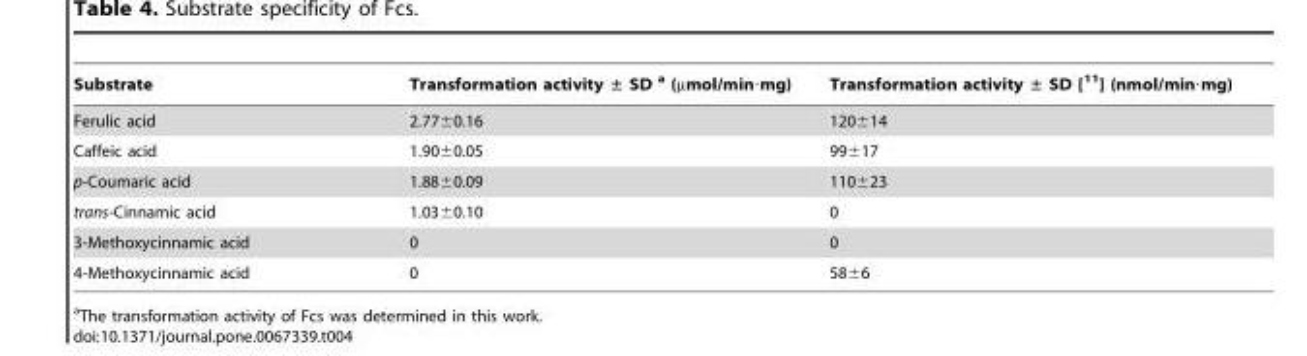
<table><thead><tr><td>Substrate</td><td>Transformation activity ± SD a (µmol/min·mg)</td><td>Transformation activity ± SD [<sup>11</sup>] (nmol/min·mg)</td></tr></thead><tbody><tr><td>Ferulic acid</td><td>2.77±0.16</td><td>120±14</td></tr><tr><td>Caffeic acid</td><td>1.90±0.05</td><td>99±17</td></tr><tr><td>p-Coumaric acid</td><td>1.88±0.09</td><td>110±23</td></tr><tr><td>trans-Cinnamic acid</td><td>1.03±0.10</td><td>0</td></tr><tr><td>3-Methoxycinnamic acid</td><td>0</td><td>0</td></tr><tr><td>4-Methoxycinnamic acid</td><td>0</td><td>58±6</td></tr></tbody></table>